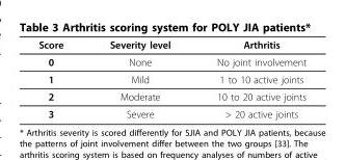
<table><thead><tr><td>Score</td><td>Severity level</td><td>Arthritis</td></tr></thead><tbody><tr><td>0</td><td>None</td><td>No joint involvement</td></tr><tr><td>1</td><td>Mild</td><td>1 to 10 active joints</td></tr><tr><td>2</td><td>Moderate</td><td>10 to 20 active joints</td></tr><tr><td>3</td><td>Severe</td><td>&gt; 20 active joints</td></tr></tbody></table>